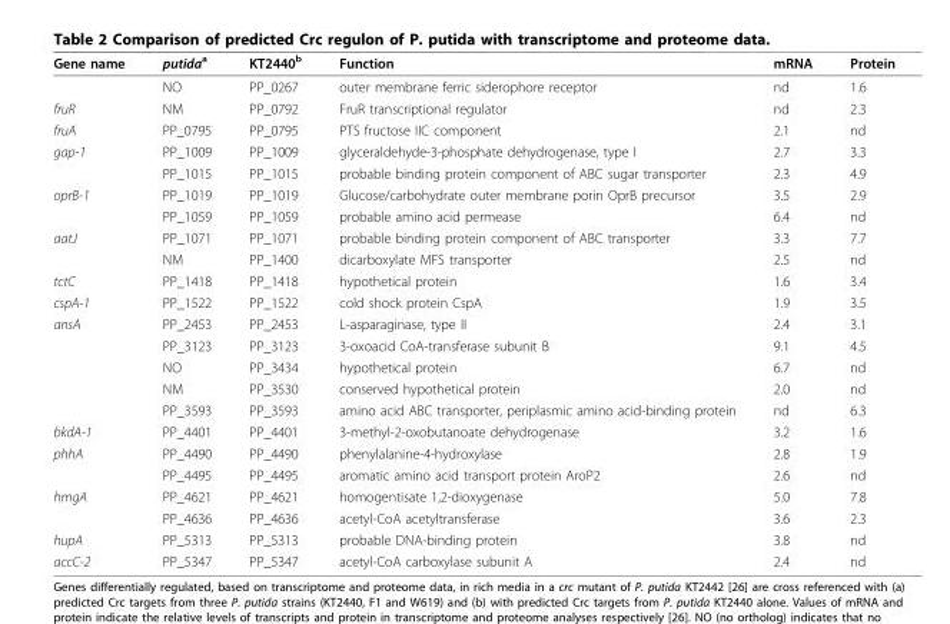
<table><thead><tr><td>Gene name</td><td>putida<sup>a</sup></td><td>KT2440<sup>b</sup></td><td>Function</td><td>mRNA</td><td>Protein</td></tr></thead><tbody><tr><td></td><td>NO</td><td>PP_0267</td><td>outer membrane ferric siderophore receptor</td><td>nd</td><td>1.6</td></tr><tr><td>fruR</td><td>NM</td><td>PP_0792</td><td>FruR transcriptional regulator</td><td>nd</td><td>2.3</td></tr><tr><td>fruA</td><td>PP_0795</td><td>PP_0795</td><td>PTS fructose IIC component</td><td>2.1</td><td>nd</td></tr><tr><td rowspan="2">gap-1</td><td>PP_1009</td><td>PP_1009</td><td>glyceraldehyde-3-phosphate dehydrogenase, type I</td><td>2.7</td><td>3.3</td></tr><tr><td>PP_1015</td><td>PP_1015</td><td>probable binding protein component of ABC sugar transporter</td><td>2.3</td><td>4.9</td></tr><tr><td rowspan="2">oprB-1</td><td>PP_1019</td><td>PP_1019</td><td>Glucose/carbohydrate outer membrane porin OprB precursor</td><td>3.5</td><td>2.9</td></tr><tr><td>PP_1059</td><td>PP_1059</td><td>probable amino acid permease</td><td>6.4</td><td>nd</td></tr><tr><td rowspan="2">aatJ</td><td>PP_1071</td><td>PP_1071</td><td>probable binding protein component of ABC transporter</td><td>3.3</td><td>7.7</td></tr><tr><td>NM</td><td>PP_1400</td><td>dicarboxylate MFS transporter</td><td>2.5</td><td>nd</td></tr><tr><td>tctC</td><td>PP_1418</td><td>PP_1418</td><td>hypothetical protein</td><td>1.6</td><td>3.4</td></tr><tr><td>cspA-1</td><td>PP_1522</td><td>PP_1522</td><td>cold shock protein CspA</td><td>1.9</td><td>3.5</td></tr><tr><td rowspan="5">ansA</td><td>PP_2453</td><td>PP_2453</td><td>L-asparaginase, type II</td><td>2.4</td><td>3.1</td></tr><tr><td>PP_3123</td><td>PP_3123</td><td>3-oxoacid CoA-transferase subunit B</td><td>9.1</td><td>4.5</td></tr><tr><td>NO</td><td>PP_3434</td><td>hypothetical protein</td><td>6.7</td><td>nd</td></tr><tr><td>NM</td><td>PP_3530</td><td>conserved hypothetical protein</td><td>2.0</td><td>nd</td></tr><tr><td>PP_3593</td><td>PP_3593</td><td>amino acid ABC transporter, periplasmic amino acid-binding protein</td><td>nd</td><td>6.3</td></tr><tr><td>bkdA-1</td><td>PP_4401</td><td>PP_4401</td><td>3-methyl-2-oxobutanoate dehydrogenase</td><td>3.2</td><td>1.6</td></tr><tr><td rowspan="2">phhA</td><td>PP_4490</td><td>PP_4490</td><td>phenylalanine-4-hydroxylase</td><td>2.8</td><td>1.9</td></tr><tr><td>PP_4495</td><td>PP_4495</td><td>aromatic amino acid transport protein AroP2</td><td>2.6</td><td>nd</td></tr><tr><td rowspan="2">hmgA</td><td>PP_4621</td><td>PP_4621</td><td>homogentisate 1,2-dioxygenase</td><td>5.0</td><td>7.8</td></tr><tr><td>PP_4636</td><td>PP_4636</td><td>acetyl-CoA acetyltransferase</td><td>3.6</td><td>2.3</td></tr><tr><td>hupA</td><td>PP_5313</td><td>PP_5313</td><td>probable DNA-binding protein</td><td>3.8</td><td>nd</td></tr><tr><td>accC-2</td><td>PP_5347</td><td>PP_5347</td><td>acetyl-CoA carboxylase subunit A</td><td>2.4</td><td>nd</td></tr></tbody></table>